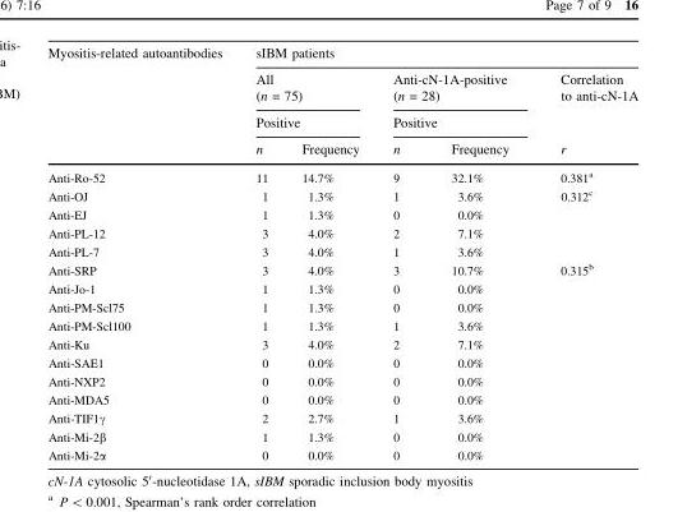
<table><thead><tr><td rowspan="4">Myositis-related autoantibodies</td><td colspan="5">sIBM patients</td></tr><tr><td rowspan="2" colspan="2">All (n = 75) Positive</td><td rowspan="2" colspan="2">Anti-cN-1A-positive (n = 28) Positive</td><td rowspan="3">Correlation to anti-cN-1A r</td></tr><tr></tr><tr><td>n</td><td>Frequency</td><td>n</td><td>Frequency</td></tr></thead><tbody><tr><td>Anti-Ro-52</td><td>11</td><td>14.7%</td><td>9</td><td>32.1%</td><td>0.381<sup>a</sup></td></tr><tr><td>Anti-OJ</td><td>1</td><td>1.3%</td><td>1</td><td>3.6%</td><td>0.312<sup>c</sup></td></tr><tr><td>Anti-EJ</td><td>1</td><td>1.3%</td><td>0</td><td>0.0%</td><td></td></tr><tr><td>Anti-PL-12</td><td>3</td><td>4.0%</td><td>2</td><td>7.1%</td><td></td></tr><tr><td>Anti-PL-7</td><td>3</td><td>4.0%</td><td>1</td><td>3.6%</td><td></td></tr><tr><td>Anti-SRP</td><td>3</td><td>4.0%</td><td>3</td><td>10.7%</td><td>0.315<sup>b</sup></td></tr><tr><td>Anti-Jo-1</td><td>1</td><td>1.3%</td><td>0</td><td>0.0%</td><td></td></tr><tr><td>Anti-PM-Scl75</td><td>1</td><td>1.3%</td><td>0</td><td>0.0%</td><td></td></tr><tr><td>Anti-PM-Scl100</td><td>1</td><td>1.3%</td><td>1</td><td>3.6%</td><td></td></tr><tr><td>Anti-Ku</td><td>3</td><td>4.0%</td><td>2</td><td>7.1%</td><td></td></tr><tr><td>Anti-SAE1</td><td>0</td><td>0.0%</td><td>0</td><td>0.0%</td><td></td></tr><tr><td>Anti-NXP2</td><td>0</td><td>0.0%</td><td>0</td><td>0.0%</td><td></td></tr><tr><td>Anti-MDA5</td><td>0</td><td>0.0%</td><td>0</td><td>0.0%</td><td></td></tr><tr><td>Anti-TIF1γ</td><td>2</td><td>2.7%</td><td>1</td><td>3.6%</td><td></td></tr><tr><td>Anti-Mi-2β</td><td>1</td><td>1.3%</td><td>0</td><td>0.0%</td><td></td></tr><tr><td>Anti-Mi-2α</td><td>0</td><td>0.0%</td><td>0</td><td>0.0%</td><td></td></tr></tbody></table>